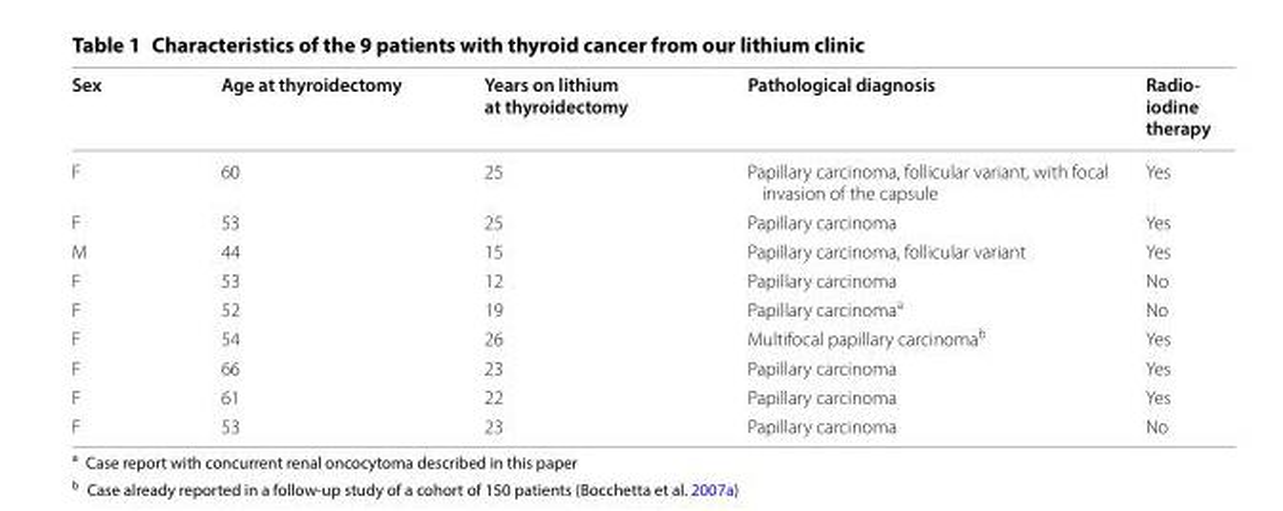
<table><thead><tr><td>Sex</td><td>Age at thyroidectomy</td><td>Years on lithium at thyroidectomy</td><td>Pathological diagnosis</td><td>Radio‑ iodine therapy</td></tr></thead><tbody><tr><td>F</td><td>60</td><td>25</td><td>Papillary carcinoma, follicular variant, with focal invasion of the capsule</td><td>Yes</td></tr><tr><td>F</td><td>53</td><td>25</td><td>Papillary carcinoma</td><td>Yes</td></tr><tr><td>M</td><td>44</td><td>15</td><td>Papillary carcinoma, follicular variant</td><td>Yes</td></tr><tr><td>F</td><td>53</td><td>12</td><td>Papillary carcinoma</td><td>No</td></tr><tr><td>F</td><td>52</td><td>19</td><td>Papillary carcinoma<sup>a</sup></td><td>No</td></tr><tr><td>F</td><td>54</td><td>26</td><td>Multifocal papillary carcinoma<sup>b</sup></td><td>Yes</td></tr><tr><td>F</td><td>66</td><td>23</td><td>Papillary carcinoma</td><td>Yes</td></tr><tr><td>F</td><td>61</td><td>22</td><td>Papillary carcinoma</td><td>Yes</td></tr><tr><td>F</td><td>53</td><td>23</td><td>Papillary carcinoma</td><td>No</td></tr></tbody></table>